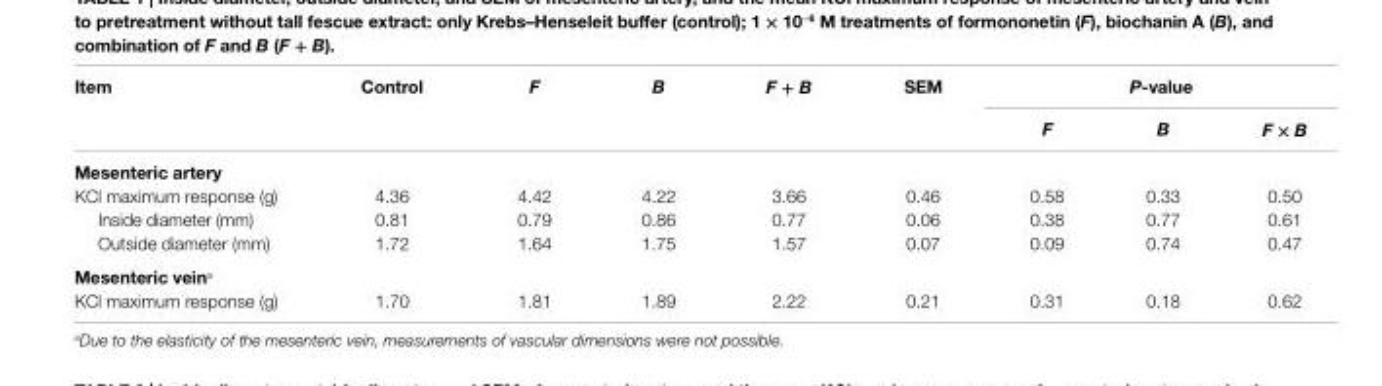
<table><thead><tr><td rowspan="2">item</td><td rowspan="2">control</td><td rowspan="2">F</td><td rowspan="2">B</td><td rowspan="2">F + B</td><td rowspan="2">seM</td><td colspan="3">P-value</td></tr><tr><td>F</td><td>B</td><td>F × B</td></tr></thead><tbody><tr><td colspan="9">Mesenteric artery</td></tr><tr><td>KCl maximum response (g)</td><td>4.36</td><td>4.42</td><td>4.22</td><td>3.66</td><td>0.46</td><td>0.58</td><td>0.33</td><td>0.50</td></tr><tr><td>Inside diameter (mm)</td><td>0.81</td><td>0.79</td><td>0.86</td><td>0.77</td><td>0.06</td><td>0.38</td><td>0.77</td><td>0.61</td></tr><tr><td>Outside diameter (mm)</td><td>1.72</td><td>1.64</td><td>1.75</td><td>1.57</td><td>0.07</td><td>0.09</td><td>0.74</td><td>0.47</td></tr><tr><td colspan="9">Mesenteric vein<sup>a</sup></td></tr><tr><td>KCl maximum response (g)</td><td>1.70</td><td>1.81</td><td>1.89</td><td>2.22</td><td>0.21</td><td>0.31</td><td>0.18</td><td>0.62</td></tr></tbody></table>